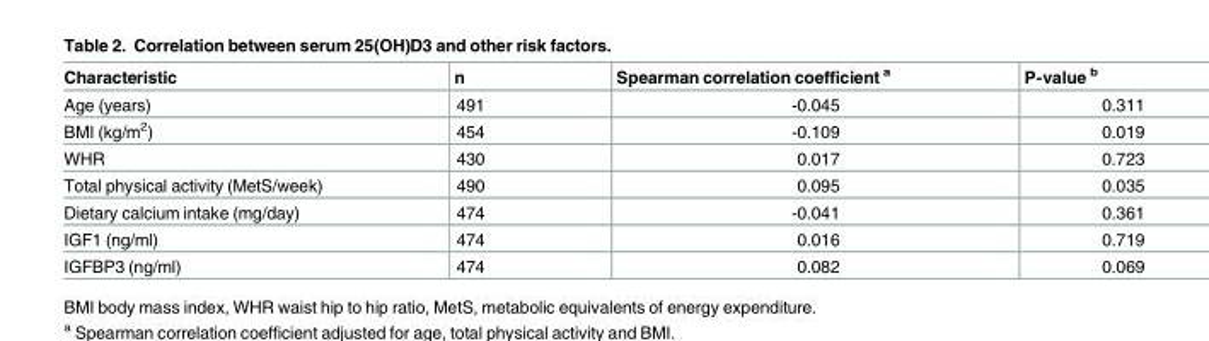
<table><thead><tr><td>Characteristic</td><td>n</td><td>Spearman correlation coefficient <sup>a</sup></td><td>P-value <sup>b</sup></td></tr></thead><tbody><tr><td>Age (years)</td><td>491</td><td>-0.045</td><td>0.311</td></tr><tr><td>BMI (kg/m<sup>2</sup>)</td><td>454</td><td>-0.109</td><td>0.019</td></tr><tr><td>WHR</td><td>430</td><td>0.017</td><td>0.723</td></tr><tr><td>Total physical activity (MetS/week)</td><td>490</td><td>0.095</td><td>0.035</td></tr><tr><td>Dietary calcium intake (mg/day)</td><td>474</td><td>-0.041</td><td>0.361</td></tr><tr><td>IGF1 (ng/ml)</td><td>474</td><td>0.016</td><td>0.719</td></tr><tr><td>IGFBP3 (ng/ml)</td><td>474</td><td>0.082</td><td>0.069</td></tr></tbody></table>